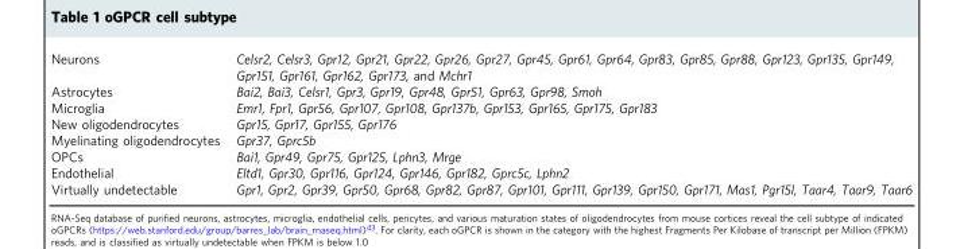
<table><tbody><tr><td>Neurons</td><td>Celsr2, Celsr3, Gpr12, Gpr21, Gpr22, Gpr26, Gpr27, Gpr45, Gpr61, Gpr64, Gpr83, Gpr85, Gpr88, Gpr123, Gpr135, Gpr149, Gpr151, Gpr161, Gpr162, Gpr173, and Mchr1</td></tr><tr><td>Astrocytes</td><td>Bai2, Bai3, Celsr1, Gpr3, Gpr19, Gpr48, Gpr51, Gpr63, Gpr98, Smoh</td></tr><tr><td>Microglia</td><td>Emr1, Fpr1, Gpr56, Gpr107, Gpr108, Gpr137b, Gpr153, Gpr165, Gpr175, Gpr183</td></tr><tr><td>New oligodendrocytes</td><td>Gpr15, Gpr17, Gpr155, Gpr176</td></tr><tr><td>Myelinating oligodendrocytes</td><td>Gpr37, Gprc5b</td></tr><tr><td>OPCs</td><td>Bai1, Gpr49, Gpr75, Gpr125, Lphn3, Mrge</td></tr><tr><td>Endothelial</td><td>Eltd1, Gpr30, Gpr116, Gpr124, Gpr146, Gpr182, Gprc5c, Lphn2</td></tr><tr><td>Virtually undetectable</td><td>Gpr1, Gpr2, Gpr39, Gpr50, Gpr68, Gpr82, Gpr87, Gpr101, Gpr111, Gpr139, Gpr150, Gpr171, Mas1, Pgr15l, Taar4, Taar9, Taar6</td></tr></tbody></table>